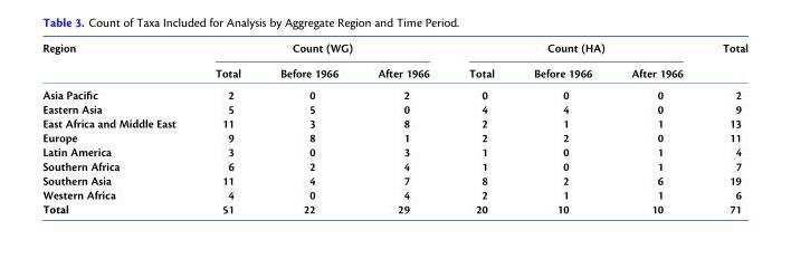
<table><thead><tr><td rowspan="2">Region</td><td colspan="3">Count (WG)</td><td colspan="3">Count (HA)</td><td rowspan="2">Total</td></tr><tr><td>Total</td><td>Before 1966</td><td>After 1966</td><td>Total</td><td>Before 1966</td><td>After 1966</td></tr></thead><tbody><tr><td>Asia Pacific</td><td>2</td><td>0</td><td>2</td><td>0</td><td>0</td><td>0</td><td>2</td></tr><tr><td>Eastern Asia</td><td>5</td><td>5</td><td>0</td><td>4</td><td>4</td><td>0</td><td>9</td></tr><tr><td>East Africa and Middle East</td><td>11</td><td>3</td><td>8</td><td>2</td><td>1</td><td>1</td><td>13</td></tr><tr><td>Europe</td><td>9</td><td>8</td><td>1</td><td>2</td><td>2</td><td>0</td><td>11</td></tr><tr><td>Latin America</td><td>3</td><td>0</td><td>3</td><td>1</td><td>0</td><td>1</td><td>4</td></tr><tr><td>Southern Africa</td><td>6</td><td>2</td><td>4</td><td>1</td><td>0</td><td>1</td><td>7</td></tr><tr><td>Southern Asia</td><td>11</td><td>4</td><td>7</td><td>8</td><td>2</td><td>6</td><td>19</td></tr><tr><td>Western Africa</td><td>4</td><td>0</td><td>4</td><td>2</td><td>1</td><td>1</td><td>6</td></tr><tr><td>Total</td><td>51</td><td>22</td><td>29</td><td>20</td><td>10</td><td>10</td><td>71</td></tr></tbody></table>